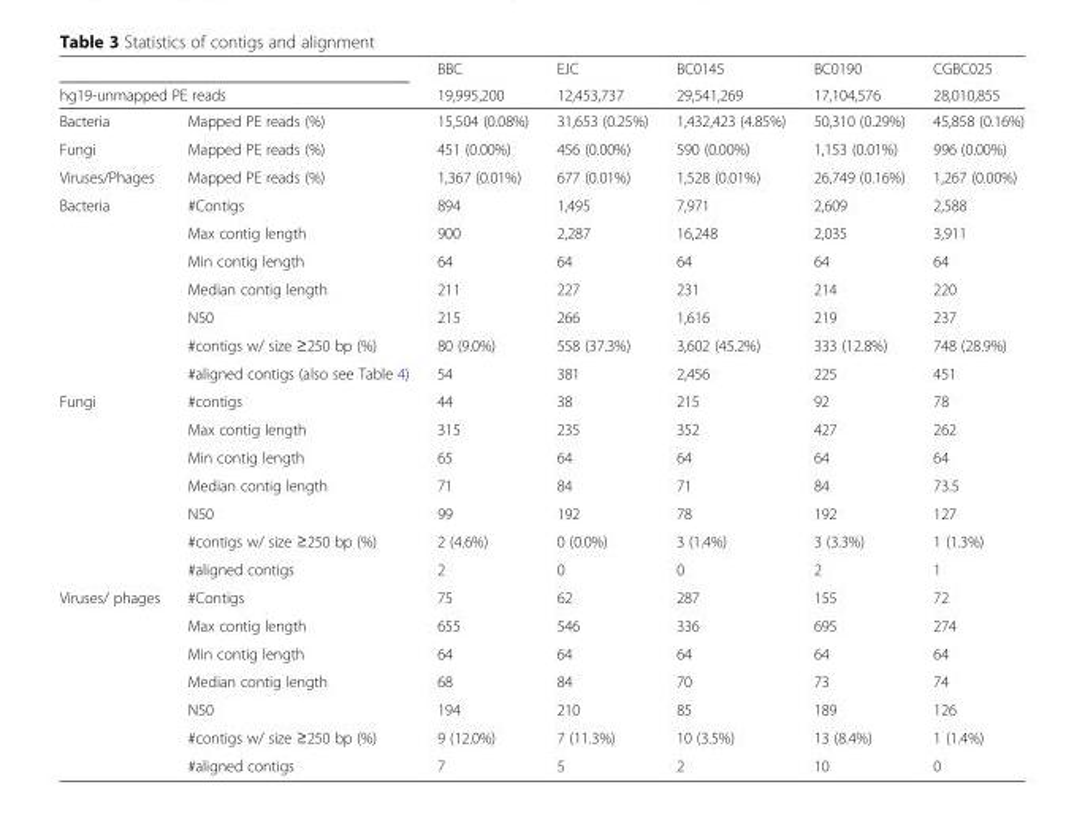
<table><thead><tr><td></td><td></td><td rowspan="2">BBC 19,995,200</td><td rowspan="2">EJC 12,453,737</td><td rowspan="2">BC0145 29,541,269</td><td rowspan="2">BC0190 17,104,576</td><td rowspan="2">CGBC025 28,010,855</td></tr><tr><td colspan="2">hg19-unmapped PE reads</td></tr></thead><tbody><tr><td>Bacteria</td><td>Mapped PE reads (%)</td><td>15,504 (0.08%)</td><td>31,653 (0.25%)</td><td>1,432,423 (4.85%)</td><td>50,310 (0.29%)</td><td>45,858 (0.16%)</td></tr><tr><td>Fungi</td><td>Mapped PE reads (%)</td><td>451 (0.00%)</td><td>456 (0.00%)</td><td>590 (0.00%)</td><td>1,153 (0.01%)</td><td>996 (0.00%)</td></tr><tr><td>Viruses/Phages</td><td>Mapped PE reads (%)</td><td>1,367 (0.01%)</td><td>677 (0.01%)</td><td>1,528 (0.01%)</td><td>26,749 (0.16%)</td><td>1,267 (0.00%)</td></tr><tr><td rowspan="7">Bacteria</td><td>#Contigs</td><td>894</td><td>1,495</td><td>7,971</td><td>2,609</td><td>2,588</td></tr><tr><td>Max contig length</td><td>900</td><td>2,287</td><td>16,248</td><td>2,035</td><td>3,911</td></tr><tr><td>Min contig length</td><td>64</td><td>64</td><td>64</td><td>64</td><td>64</td></tr><tr><td>Median contig length</td><td>211</td><td>227</td><td>231</td><td>214</td><td>220</td></tr><tr><td>N50</td><td>215</td><td>266</td><td>1,616</td><td>219</td><td>237</td></tr><tr><td>#contigs w/ size ≥250 bp (%)</td><td>80 (9.0%)</td><td>558 (37.3%)</td><td>3,602 (45.2%)</td><td>333 (12.8%)</td><td>748 (28.9%)</td></tr><tr><td>#aligned contigs (also see Table 4)</td><td>54</td><td>381</td><td>2,456</td><td>225</td><td>451</td></tr><tr><td rowspan="7">Fungi</td><td>#contigs</td><td>44</td><td>38</td><td>215</td><td>92</td><td>78</td></tr><tr><td>Max contig length</td><td>315</td><td>235</td><td>352</td><td>427</td><td>262</td></tr><tr><td>Min contig length</td><td>65</td><td>64</td><td>64</td><td>64</td><td>64</td></tr><tr><td>Median contig length</td><td>71</td><td>84</td><td>71</td><td>84</td><td>73.5</td></tr><tr><td>N50</td><td>99</td><td>192</td><td>78</td><td>192</td><td>127</td></tr><tr><td>#contigs w/ size ≥250 bp (%)</td><td>2 (4.6%)</td><td>0 (0.0%)</td><td>3 (1.4%)</td><td>3 (3.3%)</td><td>1 (1.3%)</td></tr><tr><td>#aligned contigs</td><td>2</td><td>0</td><td>0</td><td>2</td><td>1</td></tr><tr><td rowspan="7">Viruses/ phages</td><td>#Contigs</td><td>75</td><td>62</td><td>287</td><td>155</td><td>72</td></tr><tr><td>Max contig length</td><td>655</td><td>546</td><td>336</td><td>695</td><td>274</td></tr><tr><td>Min contig length</td><td>64</td><td>64</td><td>64</td><td>64</td><td>64</td></tr><tr><td>Median contig length</td><td>68</td><td>84</td><td>70</td><td>73</td><td>74</td></tr><tr><td>N50</td><td>194</td><td>210</td><td>85</td><td>189</td><td>126</td></tr><tr><td>#contigs w/ size ≥250 bp (%)</td><td>9 (12.0%)</td><td>7 (11.3%)</td><td>10 (3.5%)</td><td>13 (8.4%)</td><td>1 (1.4%)</td></tr><tr><td>#aligned contigs</td><td>7</td><td>5</td><td>2</td><td>10</td><td>0</td></tr></tbody></table>